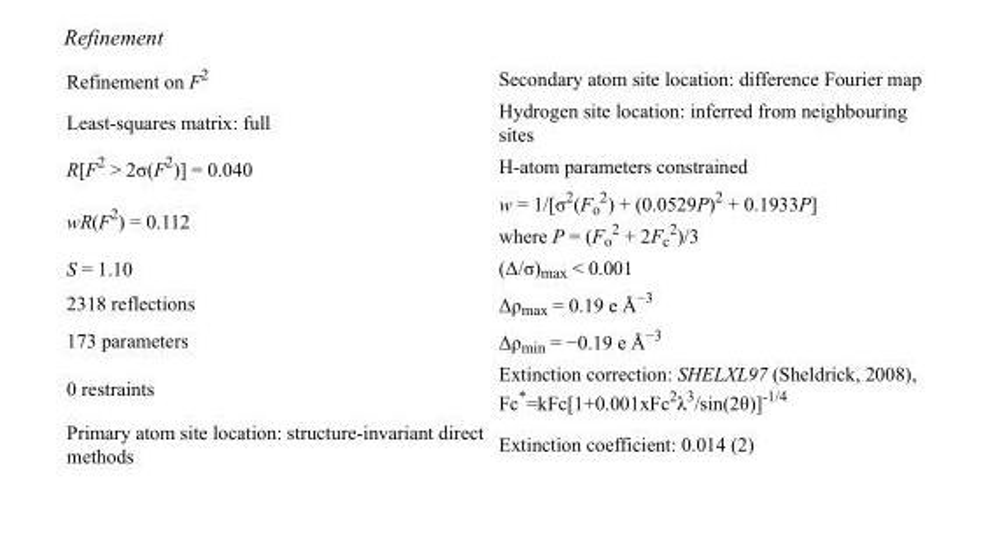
<table><tbody><tr><td>Refinement on F<sup>2</sup></td><td>Secondary atom site location: difference Fourier map</td></tr><tr><td>Least-squares matrix: full</td><td>Hydrogen site location: inferred from neighbouring sites</td></tr><tr><td>R[F<sup>2</sup> &gt; 2σ(F<sup>2</sup>)] = 0.040</td><td>H-atom parameters constrained</td></tr><tr><td>wR(F<sup>2</sup>) = 0.112</td><td>w = 1/[σ<sup>2</sup>(F<sub>o</sub> <sup>2</sup>) + (0.0529P)<sup>2</sup> + 0.1933P] where P = (F<sub>o</sub> <sup>2</sup> + 2F<sub>c</sub> <sup>2</sup>)/3</td></tr><tr><td>S = 1.10</td><td>(Δ/σ)<sub>max</sub> &lt; 0.001</td></tr><tr><td>2318 reflections</td><td>Δρ<sub>max</sub> = 0.19 e Å<sup>−3</sup></td></tr><tr><td>173 parameters</td><td>Δρ<sub>min</sub> = −0.19 e Å<sup>−3</sup></td></tr><tr><td>0 restraints</td><td>Extinction correction: SHELXL97 (Sheldrick, 2008), Fc*=kFc[1+0.001xFc<sup>2</sup>λ<sup>3</sup>/sin(2θ)]<sup>-1/4</sup></td></tr><tr><td>Primary atom site location: structure-invariant direct methods</td><td>Extinction coefficient: 0.014 (2)</td></tr></tbody></table>